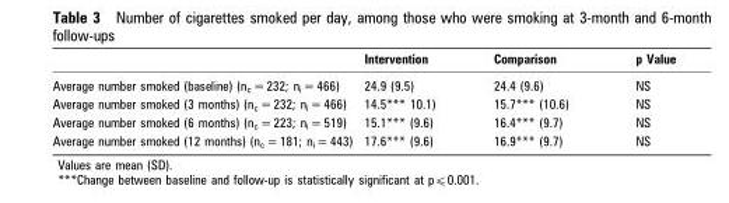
<table><thead><tr><td></td><td>Intervention</td><td>Comparison</td><td>p Value</td></tr></thead><tbody><tr><td>Average number smoked (baseline) (n<sub>c</sub> = 232; n<sub>i</sub> = 466)</td><td>24.9 (9.5)</td><td>24.4 (9.6)</td><td>NS</td></tr><tr><td>Average number smoked (3 months) (n<sub>c</sub> = 232; n<sub>i</sub> = 466)</td><td>14.5*** 10.1)</td><td>15.7*** (10.6)</td><td>NS</td></tr><tr><td>Average number smoked (6 months) (n<sub>c</sub> = 223; n<sub>i</sub> = 519)</td><td>15.1*** (9.6)</td><td>16.4*** (9.7)</td><td>NS</td></tr><tr><td>Average number smoked (12 months) (n<sub>c</sub> = 181; n<sub>i</sub> = 443)</td><td>17.6*** (9.6)</td><td>16.9*** (9.7)</td><td>NS</td></tr></tbody></table>